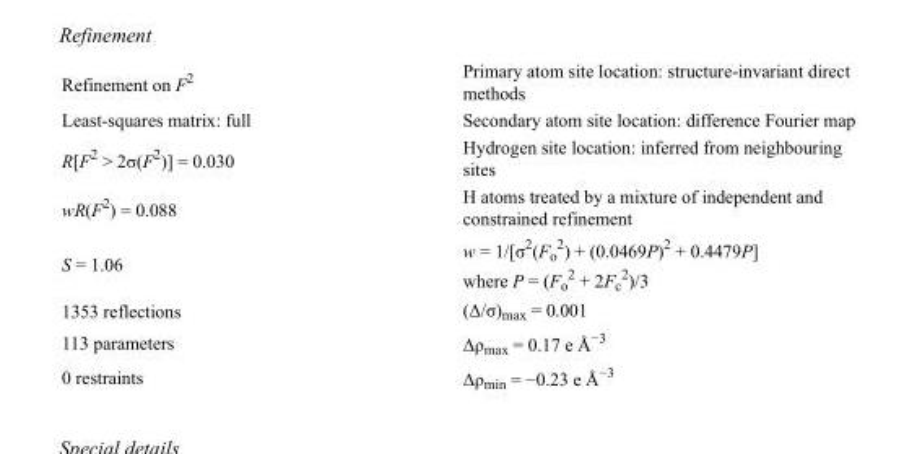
<table><tbody><tr><td>Refinement on F<sup>2</sup></td><td>Primary atom site location: structure-invariant direct methods</td></tr><tr><td>Least-squares matrix: full</td><td>Secondary atom site location: difference Fourier map</td></tr><tr><td>R[F<sup>2</sup> &gt; 2σ(F<sup>2</sup>)] = 0.030</td><td>Hydrogen site location: inferred from neighbouring sites</td></tr><tr><td>wR(F<sup>2</sup>) = 0.088</td><td>H atoms treated by a mixture of independent and constrained refinement</td></tr><tr><td>S = 1.06</td><td>w = 1/[σ<sup>2</sup>(F<sub>o</sub> <sup>2</sup>) + (0.0469P)<sup>2</sup> + 0.4479P] where P = (F<sub>o</sub> <sup>2</sup> + 2F<sub>c</sub> <sup>2</sup>)/3</td></tr><tr><td>1353 reflections</td><td>(Δ/σ)<sub>max</sub> = 0.001</td></tr><tr><td>113 parameters</td><td>Δρ<sub>max</sub> = 0.17 e Å<sup>−3</sup></td></tr><tr><td>0 restraints</td><td>Δρ<sub>min</sub> = −0.23 e Å<sup>−3</sup></td></tr></tbody></table>